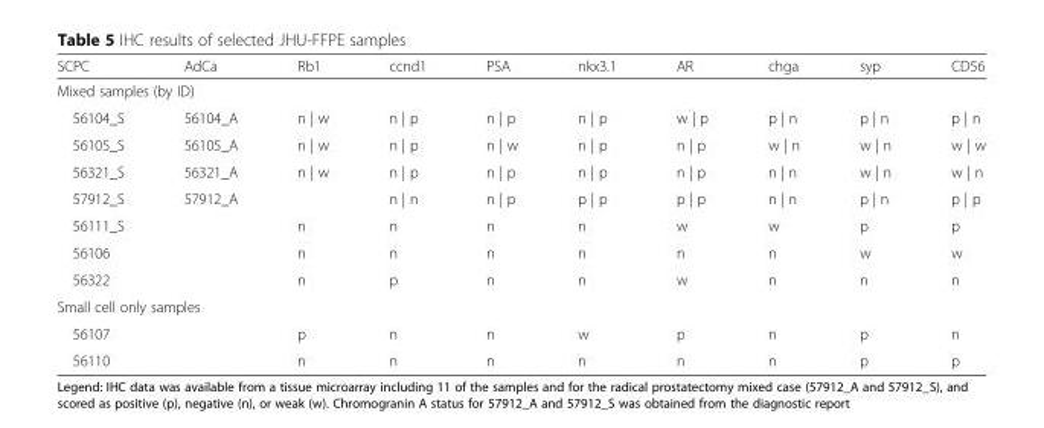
<table><thead><tr><td>SCPC</td><td>AdCa</td><td>Rb1</td><td>ccnd1</td><td>PSA</td><td>nkx3.1</td><td>AR</td><td>chga</td><td>syp</td><td>CD56</td></tr></thead><tbody><tr><td colspan="10">Mixed samples (by ID)</td></tr><tr><td>56104_S</td><td>56104_A</td><td>n | w</td><td>n | p</td><td>n | p</td><td>n | p</td><td>w | p</td><td>p | n</td><td>p | n</td><td>p | n</td></tr><tr><td>56105_S</td><td>56105_A</td><td>n | w</td><td>n | p</td><td>n | w</td><td>n | p</td><td>n | p</td><td>w | n</td><td>w | n</td><td>w | w</td></tr><tr><td>56321_S</td><td>56321_A</td><td>n | w</td><td>n | p</td><td>n | p</td><td>n | p</td><td>n | p</td><td>n | n</td><td>w | n</td><td>w | n</td></tr><tr><td>57912_S</td><td>57912_A</td><td></td><td>n | n</td><td>n | p</td><td>p | p</td><td>p | p</td><td>n | n</td><td>p | n</td><td>p | p</td></tr><tr><td>56111_S</td><td></td><td>n</td><td>n</td><td>n</td><td>n</td><td>w</td><td>w</td><td>p</td><td>p</td></tr><tr><td>56106</td><td></td><td>n</td><td>n</td><td>n</td><td>n</td><td>n</td><td>n</td><td>w</td><td>w</td></tr><tr><td>56322</td><td></td><td>n</td><td>p</td><td>n</td><td>n</td><td>w</td><td>n</td><td>n</td><td>n</td></tr><tr><td colspan="10">Small cell only samples</td></tr><tr><td>56107</td><td></td><td>p</td><td>n</td><td>n</td><td>w</td><td>p</td><td>n</td><td>p</td><td>n</td></tr><tr><td>56110</td><td></td><td>n</td><td>n</td><td>n</td><td>n</td><td>n</td><td>n</td><td>p</td><td>p</td></tr></tbody></table>